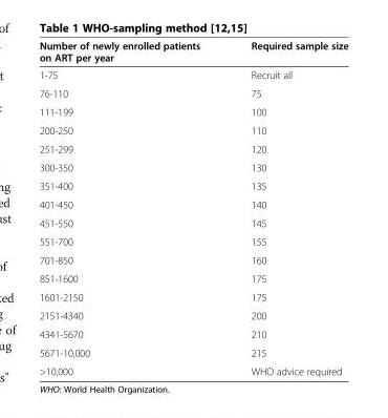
<table><thead><tr><td>Number of newly enrolled patients on ART per year</td><td>Required sample size</td></tr></thead><tbody><tr><td>1-75</td><td>Recruit all</td></tr><tr><td>76-110</td><td>75</td></tr><tr><td>111-199</td><td>100</td></tr><tr><td>200-250</td><td>110</td></tr><tr><td>251-299</td><td>120</td></tr><tr><td>300-350</td><td>130</td></tr><tr><td>351-400</td><td>135</td></tr><tr><td>401-450</td><td>140</td></tr><tr><td>451-550</td><td>145</td></tr><tr><td>551-700</td><td>155</td></tr><tr><td>701-850</td><td>160</td></tr><tr><td>851-1600</td><td>175</td></tr><tr><td>1601-2150</td><td>175</td></tr><tr><td>2151-4340</td><td>200</td></tr><tr><td>4341-5670</td><td>210</td></tr><tr><td>5671-10,000</td><td>215</td></tr><tr><td>&gt;10,000</td><td>WHO advice required</td></tr></tbody></table>